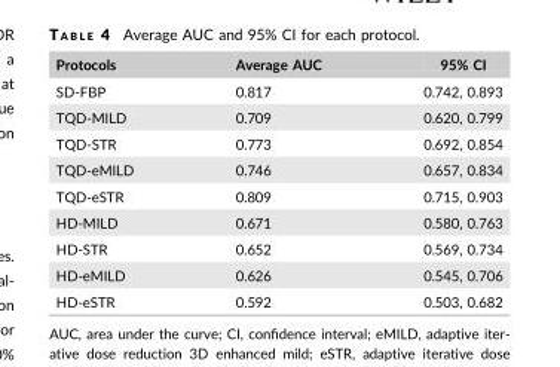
<table><thead><tr><td>Protocols</td><td>Average AUC</td><td>95% CI</td></tr></thead><tbody><tr><td>SD-FBP</td><td>0.817</td><td>0.742, 0.893</td></tr><tr><td>TQD-MILD</td><td>0.709</td><td>0.620, 0.799</td></tr><tr><td>TQD-STR</td><td>0.773</td><td>0.692, 0.854</td></tr><tr><td>TQD-eMILD</td><td>0.746</td><td>0.657, 0.834</td></tr><tr><td>TQD-eSTR</td><td>0.809</td><td>0.715, 0.903</td></tr><tr><td>HD-MILD</td><td>0.671</td><td>0.580, 0.763</td></tr><tr><td>HD-STR</td><td>0.652</td><td>0.569, 0.734</td></tr><tr><td>HD-eMILD</td><td>0.626</td><td>0.545, 0.706</td></tr><tr><td>HD-eSTR</td><td>0.592</td><td>0.503, 0.682</td></tr></tbody></table>